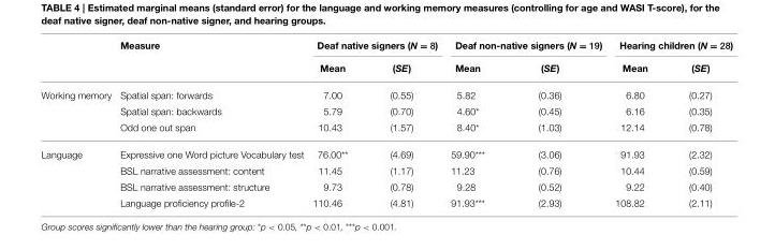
<table><thead><tr><td rowspan="2"></td><td rowspan="2">Measure</td><td colspan="2">Deaf native signers (N = 8)</td><td colspan="2">Deaf non-native signers (N = 19)</td><td colspan="2">Hearing children (N = 28)</td></tr><tr><td>Mean</td><td>(SE)</td><td>Mean</td><td>(SE)</td><td>Mean</td><td>(SE)</td></tr></thead><tbody><tr><td rowspan="3">Working memory</td><td>Spatial span: forwards</td><td>7.00</td><td>(0.55)</td><td>5.82</td><td>(0.36)</td><td>6.80</td><td>(0.27)</td></tr><tr><td>Spatial span: backwards</td><td>5.79</td><td>(0.70)</td><td>4.60*</td><td>(0.45)</td><td>6.16</td><td>(0.35)</td></tr><tr><td>Odd one out span</td><td>10.43</td><td>(1.57)</td><td>8.40*</td><td>(1.03)</td><td>12.14</td><td>(0.78)</td></tr><tr><td rowspan="4">Language</td><td>Expressive one Word picture Vocabulary test</td><td>76.00**</td><td>(4.69)</td><td>59.90***</td><td>(3.06)</td><td>91.93</td><td>(2.32)</td></tr><tr><td>BSL narrative assessment: content</td><td>11.45</td><td>(1.17)</td><td>11.23</td><td>(0.76)</td><td>10.44</td><td>(0.59)</td></tr><tr><td>BSL narrative assessment: structure</td><td>9.73</td><td>(0.78)</td><td>9.28</td><td>(0.52)</td><td>9.22</td><td>(0.40)</td></tr><tr><td>Language proficiency profile-2</td><td>110.46</td><td>(4.81)</td><td>91.93***</td><td>(2.93)</td><td>108.82</td><td>(2.11)</td></tr></tbody></table>